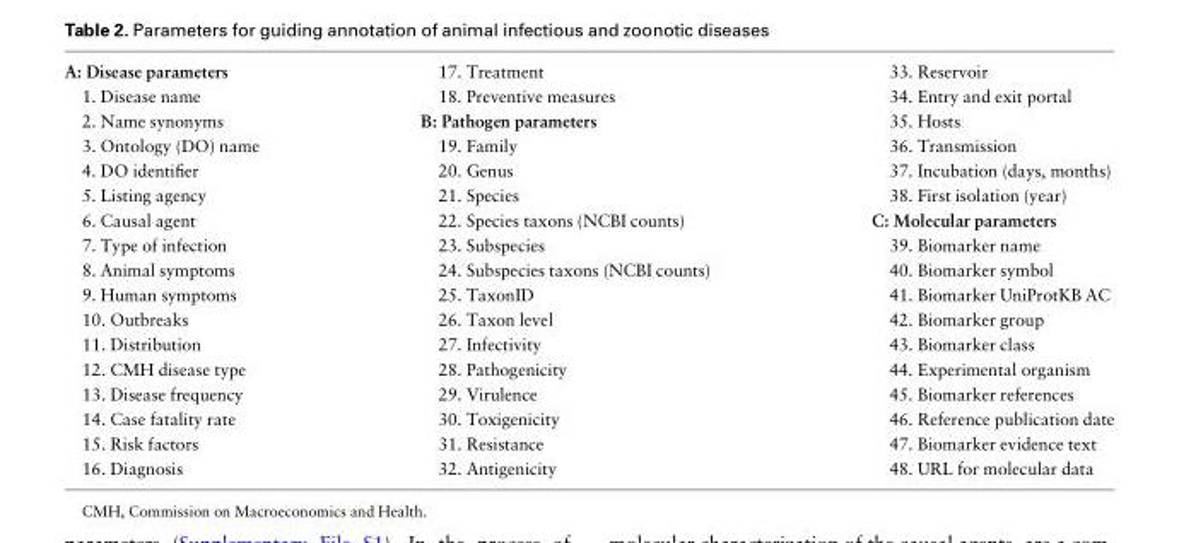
<table><tbody><tr><td>A: Disease parameters</td><td>17. Treatment</td><td>33. Reservoir</td></tr><tr><td>1. Disease name</td><td>18. Preventive measures</td><td>34. Entry and exit portal</td></tr><tr><td>2. Name synonyms</td><td>B: Pathogen parameters</td><td>35. Hosts</td></tr><tr><td>3. Ontology (DO) name</td><td>19. Family</td><td>36. Transmission</td></tr><tr><td>4. DO identifier</td><td>20. Genus</td><td>37. Incubation (days, months)</td></tr><tr><td>5. Listing agency</td><td>21. Species</td><td>38. First isolation (year)</td></tr><tr><td>6. Causal agent</td><td>22. Species taxons (NCBI counts)</td><td>C: Molecular parameters</td></tr><tr><td>7. Type of infection</td><td>23. Subspecies</td><td>39. Biomarker name</td></tr><tr><td>8. Animal symptoms</td><td>24. Subspecies taxons (NCBI counts)</td><td>40. Biomarker symbol</td></tr><tr><td>9. Human symptoms</td><td>25. TaxonID</td><td>41. Biomarker UniProtKB AC</td></tr><tr><td>10. Outbreaks</td><td>26. Taxon level</td><td>42. Biomarker group</td></tr><tr><td>11. Distribution</td><td>27. Infectivity</td><td>43. Biomarker class</td></tr><tr><td>12. CMH disease type</td><td>28. Pathogenicity</td><td>44. Experimental organism</td></tr><tr><td>13. Disease frequency</td><td>29. Virulence</td><td>45. Biomarker references</td></tr><tr><td>14. Case fatality rate</td><td>30. Toxigenicity</td><td>46. Reference publication date</td></tr><tr><td>15. Risk factors</td><td>31. Resistance</td><td>47. Biomarker evidence text</td></tr><tr><td>16. Diagnosis</td><td>32. Antigenicity</td><td>48. URL for molecular data</td></tr></tbody></table>